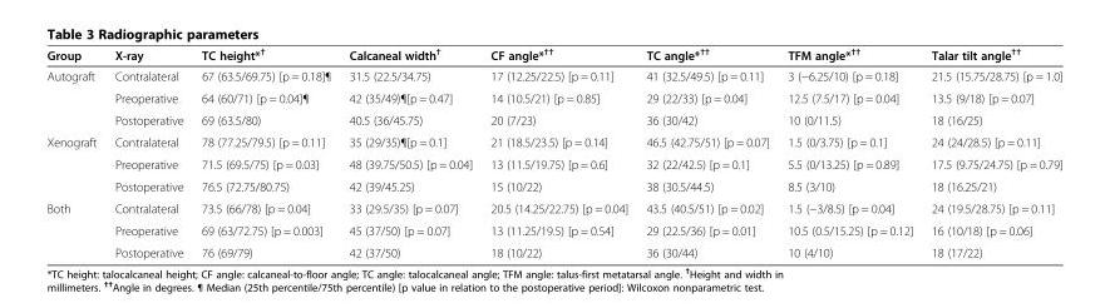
<table><thead><tr><td>Group</td><td>X-ray</td><td>TC height*<sup>†</sup></td><td>Calcaneal width<sup>†</sup></td><td>CF angle*<sup>††</sup></td><td>TC angle*<sup>††</sup></td><td>TFM angle*<sup>††</sup></td><td>Talar tilt angle<sup>††</sup></td></tr></thead><tbody><tr><td rowspan="3">Autograft</td><td>Contralateral</td><td>67 (63.5/69.75) [p = 0.18]¶</td><td>31.5 (22.5/34.75)</td><td>17 (12.25/22.5) [p = 0.11]</td><td>41 (32.5/49.5) [p = 0.11]</td><td>3 (−6.25/10) [p = 0.18]</td><td>21.5 (15.75/28.75) [p = 1.0]</td></tr><tr><td>Preoperative</td><td>64 (60/71) [p = 0.04]¶</td><td>42 (35/49)¶[p = 0.47]</td><td>14 (10.5/21) [p = 0.85]</td><td>29 (22/33) [p = 0.04]</td><td>12.5 (7.5/17) [p = 0.04]</td><td>13.5 (9/18) [p = 0.07]</td></tr><tr><td>Postoperative</td><td>69 (63.5/80)</td><td>40.5 (36/45.75)</td><td>20 (7/23)</td><td>36 (30/42)</td><td>10 (0/11.5)</td><td>18 (16/25)</td></tr><tr><td rowspan="3">Xenograft</td><td>Contralateral</td><td>78 (77.25/79.5) [p = 0.11]</td><td>35 (29/35)¶[p = 0.1]</td><td>21 (18.5/23.5) [p = 0.14]</td><td>46.5 (42.75/51) [p = 0.07]</td><td>1.5 (0/3.75) [p = 0.1]</td><td>24 (24/28.5) [p = 0.11]</td></tr><tr><td>Preoperative</td><td>71.5 (69.5/75) [p = 0.03]</td><td>48 (39.75/50.5) [p = 0.04]</td><td>13 (11.5/19.75) [p = 0.6]</td><td>32 (22/42.5) [p = 0.1]</td><td>5.5 (0/13.25) [p = 0.89]</td><td>17.5 (9.75/24.75) [p = 0.79]</td></tr><tr><td>Postoperative</td><td>76.5 (72.75/80.75)</td><td>42 (39/45.25)</td><td>15 (10/22)</td><td>38 (30.5/44.5)</td><td>8.5 (3/10)</td><td>18 (16.25/21)</td></tr><tr><td rowspan="3">Both</td><td>Contralateral</td><td>73.5 (66/78) [p = 0.04]</td><td>33 (29.5/35) [p = 0.07]</td><td>20.5 (14.25/22.75) [p = 0.04]</td><td>43.5 (40.5/51) [p = 0.02]</td><td>1.5 (−3/8.5) [p = 0.04]</td><td>24 (19.5/28.75) [p = 0.11]</td></tr><tr><td>Preoperative</td><td>69 (63/72.75) [p = 0.003]</td><td>45 (37/50) [p = 0.07]</td><td>13 (11.25/19.5) [p = 0.54]</td><td>29 (22.5/36) [p = 0.01]</td><td>10.5 (0.5/15.25) [p = 0.12]</td><td>16 (10/18) [p = 0.06]</td></tr><tr><td>Postoperative</td><td>76 (69/79)</td><td>42 (37/50)</td><td>18 (10/22)</td><td>36 (30/44)</td><td>10 (4/10)</td><td>18 (17/22)</td></tr></tbody></table>